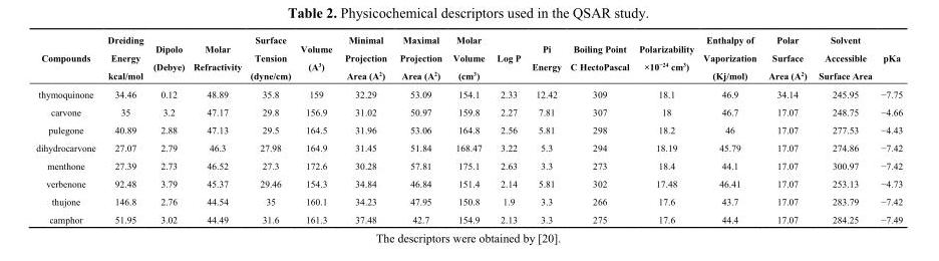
<table><thead><tr><td>Compounds</td><td>Dreiding Energy kcal/mol</td><td>Dipolo (Debye)</td><td>Molar Refractivity</td><td>Surface Tension (dyne/cm)</td><td>Volume (A<sup>3</sup>)</td><td>Minimal Projection Area (A<sup>2</sup>)</td><td>Maximal Projection Area (A<sup>2</sup>)</td><td>Molar Volume (cm<sup>3</sup>)</td><td>Log P</td><td>Pi Energy</td><td>Boiling Point C HectoPascal</td><td>Polarizability ×10<sup>−24</sup> cm<sup>3</sup>)</td><td>Enthalpy of Vaporization (Kj/mol)</td><td>Polar Surface Area (A<sup>2</sup>)</td><td>Solvent Accessible Surface Area</td><td>pKa</td></tr></thead><tbody><tr><td>thymoquinone</td><td>34.46</td><td>0.12</td><td>48.89</td><td>35.8</td><td>159</td><td>32.29</td><td>53.09</td><td>154.1</td><td>2.33</td><td>12.42</td><td>309</td><td>18.1</td><td>46.9</td><td>34.14</td><td>245.95</td><td>−7.75</td></tr><tr><td>carvone</td><td>35</td><td>3.2</td><td>47.17</td><td>29.8</td><td>156.9</td><td>31.02</td><td>50.97</td><td>159.8</td><td>2.27</td><td>7.81</td><td>307</td><td>18</td><td>46.7</td><td>17.07</td><td>248.75</td><td>−4.66</td></tr><tr><td>pulegone</td><td>40.89</td><td>2.88</td><td>47.13</td><td>29.5</td><td>164.5</td><td>31.96</td><td>53.06</td><td>164.8</td><td>2.56</td><td>5.81</td><td>298</td><td>18.2</td><td>46</td><td>17.07</td><td>277.53</td><td>−4.43</td></tr><tr><td>dihydrocarvone</td><td>27.07</td><td>2.79</td><td>46.3</td><td>27.98</td><td>164.9</td><td>31.45</td><td>51.84</td><td>168.47</td><td>3.22</td><td>5.3</td><td>294</td><td>18.19</td><td>45.79</td><td>17.07</td><td>274.86</td><td>−7.42</td></tr><tr><td>menthone</td><td>27.39</td><td>2.73</td><td>46.52</td><td>27.3</td><td>172.6</td><td>30.28</td><td>57.81</td><td>175.1</td><td>2.63</td><td>3.3</td><td>273</td><td>18.4</td><td>44.1</td><td>17.07</td><td>300.97</td><td>−7.42</td></tr><tr><td>verbenone</td><td>92.48</td><td>3.79</td><td>45.37</td><td>29.46</td><td>154.3</td><td>34.84</td><td>46.84</td><td>151.4</td><td>2.14</td><td>5.81</td><td>302</td><td>17.48</td><td>46.41</td><td>17.07</td><td>253.13</td><td>−4.73</td></tr><tr><td>thujone</td><td>146.8</td><td>2.76</td><td>44.54</td><td>35</td><td>160.1</td><td>34.23</td><td>47.95</td><td>150.8</td><td>1.9</td><td>3.3</td><td>266</td><td>17.6</td><td>43.7</td><td>17.07</td><td>283.79</td><td>−7.42</td></tr><tr><td>camphor</td><td>51.95</td><td>3.02</td><td>44.49</td><td>31.6</td><td>161.3</td><td>37.48</td><td>42.7</td><td>154.9</td><td>2.13</td><td>3.3</td><td>275</td><td>17.6</td><td>44.4</td><td>17.07</td><td>284.25</td><td>−7.49</td></tr></tbody></table>